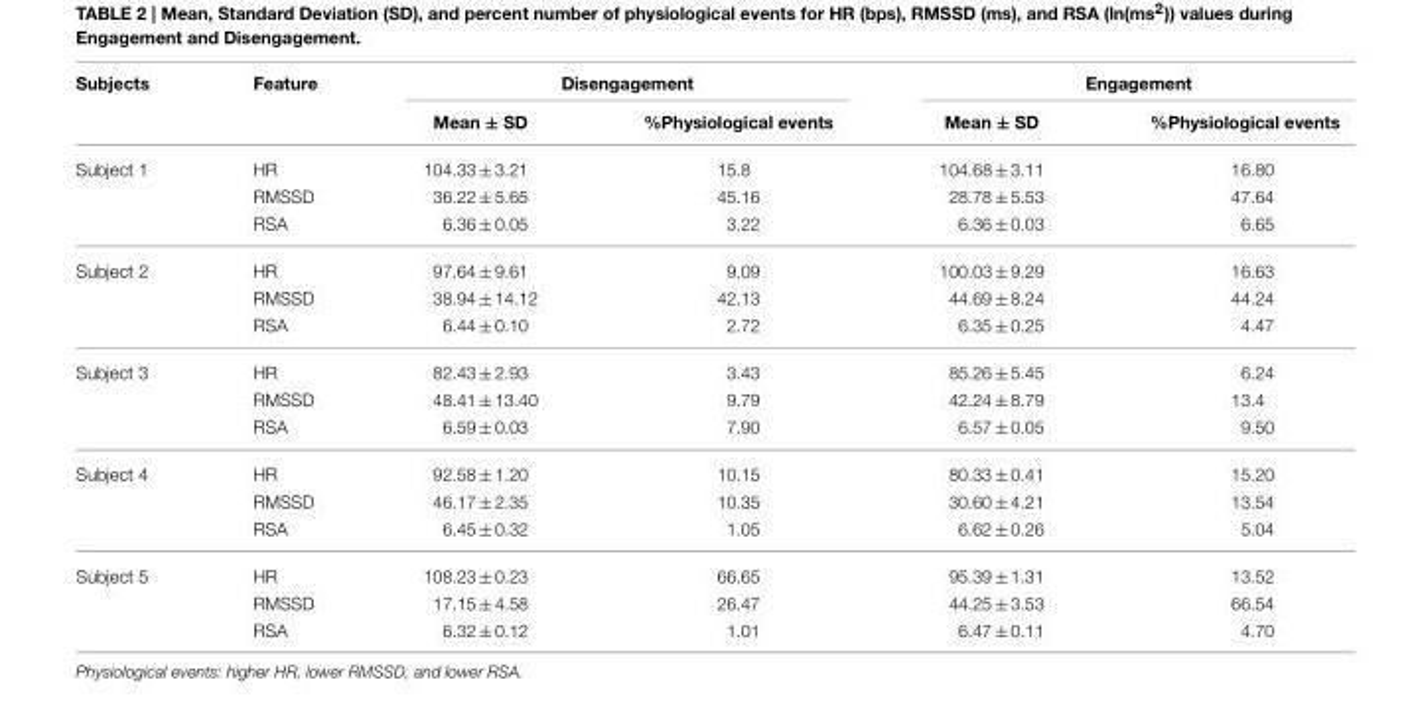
<table><thead><tr><td rowspan="2">Subjects</td><td rowspan="2">Feature</td><td colspan="2">Disengagement</td><td colspan="2">Engagement</td></tr><tr><td>Mean ± SD</td><td>%Physiological events</td><td>Mean ± SD</td><td>%Physiological events</td></tr></thead><tbody><tr><td rowspan="3">Subject 1</td><td>HR</td><td>104.33 ± 3.21</td><td>15.8</td><td>104.68 ± 3.11</td><td>16.80</td></tr><tr><td>RMSSD</td><td>36.22 ± 5.65</td><td>45.16</td><td>28.78 ± 5.53</td><td>47.64</td></tr><tr><td>RSA</td><td>6.36 ± 0.05</td><td>3.22</td><td>6.36 ± 0.03</td><td>6.65</td></tr><tr><td rowspan="3">Subject 2</td><td>HR</td><td>97.64 ± 9.61</td><td>9.09</td><td>100.03 ± 9.29</td><td>16.63</td></tr><tr><td>RMSSD</td><td>38.94 ± 14.12</td><td>42.13</td><td>44.69 ± 8.24</td><td>44.24</td></tr><tr><td>RSA</td><td>6.44 ± 0.10</td><td>2.72</td><td>6.35 ± 0.25</td><td>4.47</td></tr><tr><td rowspan="3">Subject 3</td><td>HR</td><td>82.43 ± 2.93</td><td>3.43</td><td>85.26 ± 5.45</td><td>6.24</td></tr><tr><td>RMSSD</td><td>48.41 ± 13.40</td><td>9.79</td><td>42.24 ± 8.79</td><td>13.4</td></tr><tr><td>RSA</td><td>6.59 ± 0.03</td><td>7.90</td><td>6.57 ± 0.05</td><td>9.50</td></tr><tr><td rowspan="3">Subject 4</td><td>HR</td><td>92.58 ± 1.20</td><td>10.15</td><td>80.33 ± 0.41</td><td>15.20</td></tr><tr><td>RMSSD</td><td>46.17 ± 2.35</td><td>10.35</td><td>30.60 ± 4.21</td><td>13.54</td></tr><tr><td>RSA</td><td>6.45 ± 0.32</td><td>1.05</td><td>6.62 ± 0.26</td><td>5.04</td></tr><tr><td rowspan="3">Subject 5</td><td>HR</td><td>108.23 ± 0.23</td><td>66.65</td><td>95.39 ± 1.31</td><td>13.52</td></tr><tr><td>RMSSD</td><td>17.15 ± 4.58</td><td>26.47</td><td>44.25 ± 3.53</td><td>66.54</td></tr><tr><td>RSA</td><td>6.32 ± 0.12</td><td>1.01</td><td>6.47 ± 0.11</td><td>4.70</td></tr></tbody></table>